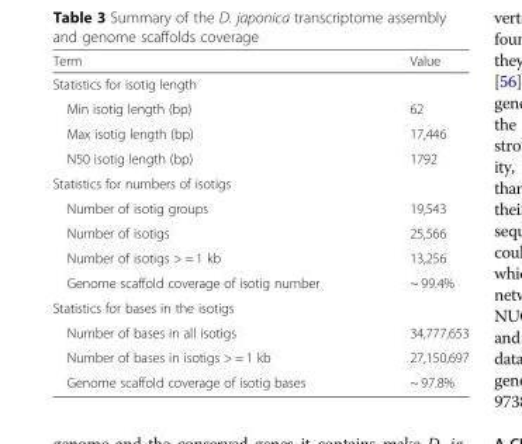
<table><thead><tr><td>Term</td><td>Value</td></tr></thead><tbody><tr><td colspan="2">Statistics for isotig length</td></tr><tr><td>Min isotig length (bp)</td><td>62</td></tr><tr><td>Max isotig length (bp)</td><td>17,446</td></tr><tr><td>N50 isotig length (bp)</td><td>1792</td></tr><tr><td colspan="2">Statistics for numbers of isotigs</td></tr><tr><td>Number of isotig groups</td><td>19,543</td></tr><tr><td>Number of isotigs</td><td>25,566</td></tr><tr><td>Number of isotigs &gt; = 1 kb</td><td>13,256</td></tr><tr><td>Genome scaffold coverage of isotig number</td><td>~ 99.4%</td></tr><tr><td colspan="2">Statistics for bases in the isotigs</td></tr><tr><td>Number of bases in all isotigs</td><td>34,777,653</td></tr><tr><td>Number of bases in isotigs &gt; = 1 kb</td><td>27,150,697</td></tr><tr><td>Genome scaffold coverage of isotig bases</td><td>~ 97.8%</td></tr></tbody></table>